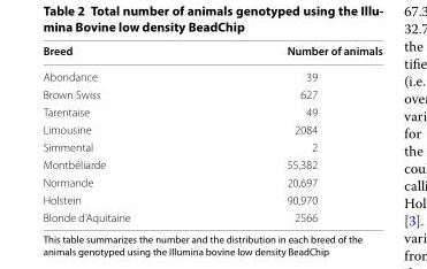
<table><thead><tr><td>Breed</td><td>Number of animals</td></tr></thead><tbody><tr><td>Abondance</td><td>39</td></tr><tr><td>Brown Swiss</td><td>627</td></tr><tr><td>Tarentaise</td><td>49</td></tr><tr><td>Limousine</td><td>2084</td></tr><tr><td>Simmental</td><td>2</td></tr><tr><td>Montbéliarde</td><td>55,382</td></tr><tr><td>Normande</td><td>20,697</td></tr><tr><td>Holstein</td><td>90,970</td></tr><tr><td>Blonde d’Aquitaine</td><td>2566</td></tr></tbody></table>